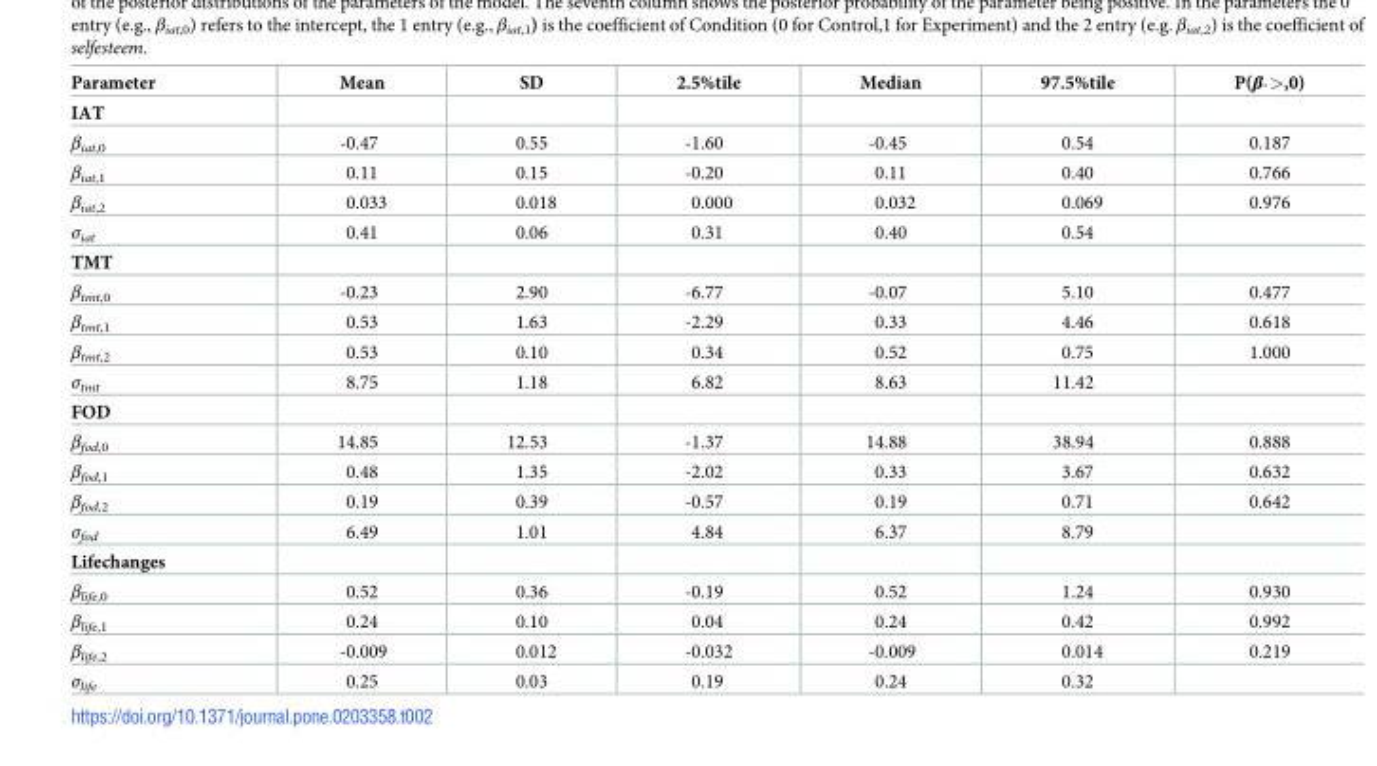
<table><thead><tr><td>Parameter</td><td>Mean</td><td>SD</td><td>2.5%tile</td><td>Median</td><td>97.5%tile</td><td>P(β<sub>*</sub>&gt;,0)</td></tr></thead><tbody><tr><td colspan="7">IAT</td></tr><tr><td>β<sub>iat,0</sub></td><td>-0.47</td><td>0.55</td><td>-1.60</td><td>-0.45</td><td>0.54</td><td>0.187</td></tr><tr><td>β<sub>iat,1</sub></td><td>0.11</td><td>0.15</td><td>-0.20</td><td>0.11</td><td>0.40</td><td>0.766</td></tr><tr><td>β<sub>iat,2</sub></td><td>0.033</td><td>0.018</td><td>0.000</td><td>0.032</td><td>0.069</td><td>0.976</td></tr><tr><td>σ<sub>iat</sub></td><td>0.41</td><td>0.06</td><td>0.31</td><td>0.40</td><td>0.54</td><td></td></tr><tr><td colspan="7">TMT</td></tr><tr><td>β<sub>tmt,0</sub></td><td>-0.23</td><td>2.90</td><td>-6.77</td><td>-0.07</td><td>5.10</td><td>0.477</td></tr><tr><td>β<sub>tmt,1</sub></td><td>0.53</td><td>1.63</td><td>-2.29</td><td>0.33</td><td>4.46</td><td>0.618</td></tr><tr><td>β<sub>tmt,2</sub></td><td>0.53</td><td>0.10</td><td>0.34</td><td>0.52</td><td>0.75</td><td>1.000</td></tr><tr><td>σ<sub>tmt</sub></td><td>8.75</td><td>1.18</td><td>6.82</td><td>8.63</td><td>11.42</td><td></td></tr><tr><td colspan="7">FOD</td></tr><tr><td>β<sub>fod,0</sub></td><td>14.85</td><td>12.53</td><td>-1.37</td><td>14.88</td><td>38.94</td><td>0.888</td></tr><tr><td>β<sub>fod,1</sub></td><td>0.48</td><td>1.35</td><td>-2.02</td><td>0.33</td><td>3.67</td><td>0.632</td></tr><tr><td>β<sub>fod,2</sub></td><td>0.19</td><td>0.39</td><td>-0.57</td><td>0.19</td><td>0.71</td><td>0.642</td></tr><tr><td>σ<sub>fod</sub></td><td>6.49</td><td>1.01</td><td>4.84</td><td>6.37</td><td>8.79</td><td></td></tr><tr><td colspan="7">Lifechanges</td></tr><tr><td>β<sub>life,0</sub></td><td>0.52</td><td>0.36</td><td>-0.19</td><td>0.52</td><td>1.24</td><td>0.930</td></tr><tr><td>β<sub>life,1</sub></td><td>0.24</td><td>0.10</td><td>0.04</td><td>0.24</td><td>0.42</td><td>0.992</td></tr><tr><td>β<sub>life,2</sub></td><td>-0.009</td><td>0.012</td><td>-0.032</td><td>-0.009</td><td>0.014</td><td>0.219</td></tr><tr><td>σ<sub>life</sub></td><td>0.25</td><td>0.03</td><td>0.19</td><td>0.24</td><td>0.32</td><td></td></tr></tbody></table>